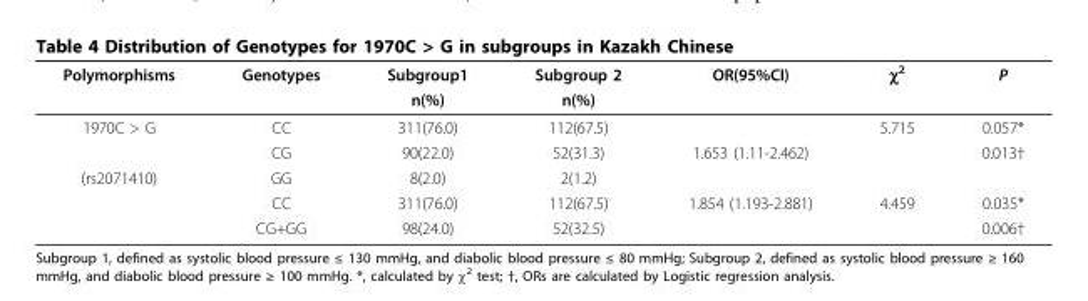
<table><thead><tr><td rowspan="2">Polymorphisms</td><td rowspan="2">Genotypes</td><td rowspan="2">Subgroup1 n(%)</td><td rowspan="2">Subgroup 2 n(%)</td><td rowspan="2">OR(95%CI)</td><td rowspan="2">χ<sup>2</sup></td><td rowspan="2">P</td></tr><tr></tr></thead><tbody><tr><td rowspan="2">1970C &gt; G</td><td>CC</td><td>311(76.0)</td><td>112(67.5)</td><td></td><td>5.715</td><td>0.057*</td></tr><tr><td>CG</td><td>90(22.0)</td><td>52(31.3)</td><td>1.653 (1.11-2.462)</td><td></td><td>0.013†</td></tr><tr><td rowspan="3">(rs2071410)</td><td>GG</td><td>8(2.0)</td><td>2(1.2)</td><td></td><td></td><td></td></tr><tr><td>CC</td><td>311(76.0)</td><td>112(67.5)</td><td>1.854 (1.193-2.881)</td><td>4.459</td><td>0.035*</td></tr><tr><td>CG+GG</td><td>98(24.0)</td><td>52(32.5)</td><td></td><td></td><td>0.006†</td></tr></tbody></table>